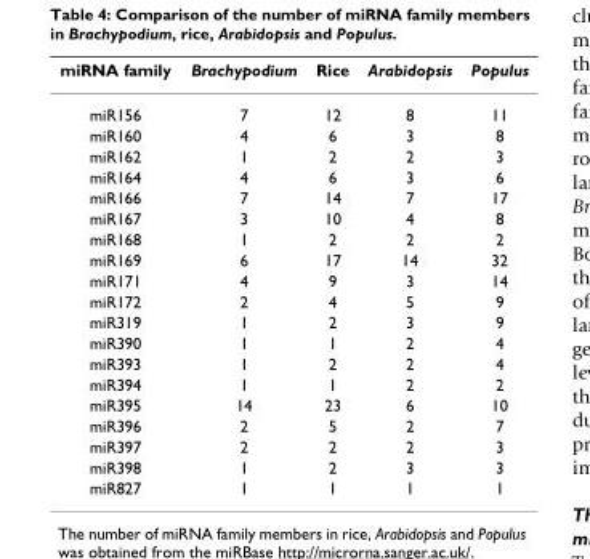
<table><thead><tr><td>miRNA family</td><td>Brachypodium</td><td>Rice</td><td>Arabidopsis</td><td>Populus</td></tr></thead><tbody><tr><td>miR156</td><td>7</td><td>12</td><td>8</td><td>11</td></tr><tr><td>miR160</td><td>4</td><td>6</td><td>3</td><td>8</td></tr><tr><td>miR162</td><td>1</td><td>2</td><td>2</td><td>3</td></tr><tr><td>miR164</td><td>4</td><td>6</td><td>3</td><td>6</td></tr><tr><td>miR166</td><td>7</td><td>14</td><td>7</td><td>17</td></tr><tr><td>miR167</td><td>3</td><td>10</td><td>4</td><td>8</td></tr><tr><td>miR168</td><td>1</td><td>2</td><td>2</td><td>2</td></tr><tr><td>miR169</td><td>6</td><td>17</td><td>14</td><td>32</td></tr><tr><td>miR171</td><td>4</td><td>9</td><td>3</td><td>14</td></tr><tr><td>miR172</td><td>2</td><td>4</td><td>5</td><td>9</td></tr><tr><td>miR319</td><td>1</td><td>2</td><td>3</td><td>9</td></tr><tr><td>miR390</td><td>1</td><td>1</td><td>2</td><td>4</td></tr><tr><td>miR393</td><td>1</td><td>2</td><td>2</td><td>4</td></tr><tr><td>miR394</td><td>1</td><td>1</td><td>2</td><td>2</td></tr><tr><td>miR395</td><td>14</td><td>23</td><td>6</td><td>10</td></tr><tr><td>miR396</td><td>2</td><td>5</td><td>2</td><td>7</td></tr><tr><td>miR397</td><td>2</td><td>2</td><td>2</td><td>3</td></tr><tr><td>miR398</td><td>1</td><td>2</td><td>3</td><td>3</td></tr><tr><td>miR827</td><td>1</td><td>1</td><td>1</td><td>1</td></tr></tbody></table>